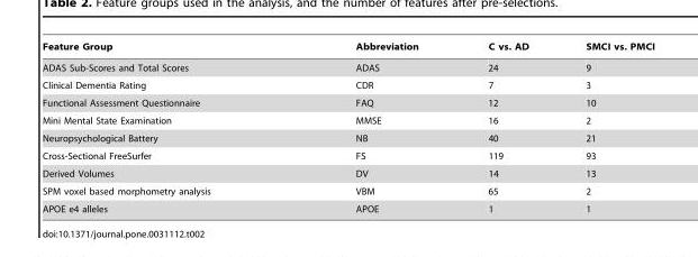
<table><thead><tr><td>Feature Group</td><td>Abbreviation</td><td>C vs. AD</td><td>SMCI vs. PMCI</td></tr></thead><tbody><tr><td>ADAS Sub-Scores and Total Scores</td><td>ADAS</td><td>24</td><td>9</td></tr><tr><td>Clinical Dementia Rating</td><td>CDR</td><td>7</td><td>3</td></tr><tr><td>Functional Assessment Questionnaire</td><td>FAQ</td><td>12</td><td>10</td></tr><tr><td>Mini Mental State Examination</td><td>MMSE</td><td>16</td><td>2</td></tr><tr><td>Neuropsychological Battery</td><td>NB</td><td>40</td><td>21</td></tr><tr><td>Cross-Sectional FreeSurfer</td><td>FS</td><td>119</td><td>93</td></tr><tr><td>Derived Volumes</td><td>DV</td><td>14</td><td>13</td></tr><tr><td>SPM voxel based morphometry analysis</td><td>VBM</td><td>65</td><td>2</td></tr><tr><td>APOE e4 alleles</td><td>APOE</td><td>1</td><td>1</td></tr></tbody></table>